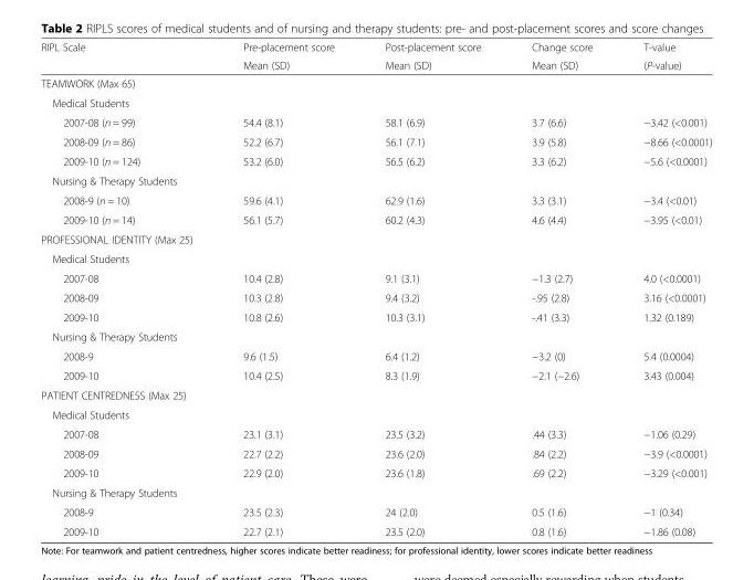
<table><thead><tr><td rowspan="2">RIPL Scale</td><td rowspan="2">Pre-placement score Mean (SD)</td><td rowspan="2">Post-placement score Mean (SD)</td><td rowspan="2">Change score Mean (SD)</td><td rowspan="2">T-value (P-value)</td></tr><tr></tr></thead><tbody><tr><td colspan="5">TEAMWORK (Max 65)</td></tr><tr><td colspan="5">Medical Students</td></tr><tr><td>2007-08 (n = 99)</td><td>54.4 (8.1)</td><td>58.1 (6.9)</td><td>3.7 (6.6)</td><td>−3.42 (&lt;0.001)</td></tr><tr><td>2008-09 (n = 86)</td><td>52.2 (6.7)</td><td>56.1 (7.1)</td><td>3.9 (5.8)</td><td>−8.66 (&lt;0.0001)</td></tr><tr><td>2009-10 (n = 124)</td><td>53.2 (6.0)</td><td>56.5 (6.2)</td><td>3.3 (6.2)</td><td>−5.6 (&lt;0.0001)</td></tr><tr><td colspan="5">Nursing &amp; Therapy Students</td></tr><tr><td>2008-9 (n = 10)</td><td>59.6 (4.1)</td><td>62.9 (1.6)</td><td>3.3 (3.1)</td><td>−3.4 (&lt;0.01)</td></tr><tr><td>2009-10 (n = 14)</td><td>56.1 (5.7)</td><td>60.2 (4.3)</td><td>4.6 (4.4)</td><td>−3.95 (&lt;0.01)</td></tr><tr><td colspan="5">PROFESSIONAL IDENTITY (Max 25)</td></tr><tr><td colspan="5">Medical Students</td></tr><tr><td>2007-08</td><td>10.4 (2.8)</td><td>9.1 (3.1)</td><td>−1.3 (2.7)</td><td>4.0 (&lt;0.0001)</td></tr><tr><td>2008-09</td><td>10.3 (2.8)</td><td>9.4 (3.2)</td><td>-.95 (2.8)</td><td>3.16 (&lt;0.0001)</td></tr><tr><td>2009-10</td><td>10.8 (2.6)</td><td>10.3 (3.1)</td><td>-.41 (3.3)</td><td>1.32 (0.189)</td></tr><tr><td colspan="5">Nursing &amp; Therapy Students</td></tr><tr><td>2008-9</td><td>9.6 (1.5)</td><td>6.4 (1.2)</td><td>−3.2 (0)</td><td>5.4 (0.0004)</td></tr><tr><td>2009-10</td><td>10.4 (2.5)</td><td>8.3 (1.9)</td><td>−2.1 (−2.6)</td><td>3.43 (0.004)</td></tr><tr><td colspan="5">PATIENT CENTREDNESS (Max 25)</td></tr><tr><td colspan="5">Medical Students</td></tr><tr><td>2007-08</td><td>23.1 (3.1)</td><td>23.5 (3.2)</td><td>.44 (3.3)</td><td>−1.06 (0.29)</td></tr><tr><td>2008-09</td><td>22.7 (2.2)</td><td>23.6 (2.0)</td><td>.84 (2.2)</td><td>−3.9 (&lt;0.0001)</td></tr><tr><td>2009-10</td><td>22.9 (2.0)</td><td>23.6 (1.8)</td><td>.69 (2.2)</td><td>−3.29 (&lt;0.001)</td></tr><tr><td colspan="5">Nursing &amp; Therapy Students</td></tr><tr><td>2008-9</td><td>23.5 (2.3)</td><td>24 (2.0)</td><td>0.5 (1.6)</td><td>−1 (0.34)</td></tr><tr><td>2009-10</td><td>22.7 (2.1)</td><td>23.5 (2.0)</td><td>0.8 (1.6)</td><td>−1.86 (0.08)</td></tr></tbody></table>